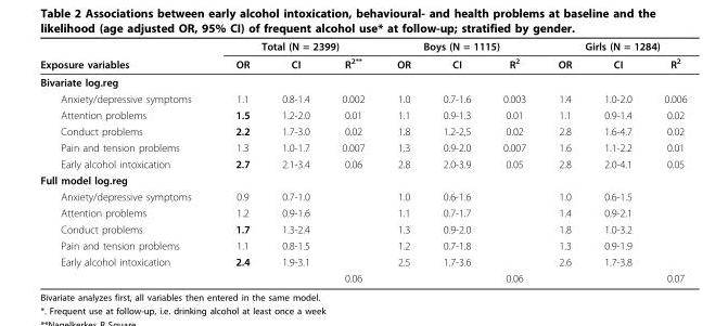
<table><thead><tr><td rowspan="2">Exposure variables</td><td colspan="3">Total (N = 2399)</td><td colspan="3">Boys (N = 1115)</td><td colspan="3">Girls (N = 1284)</td></tr><tr><td>OR</td><td>CI</td><td>R<sup>2**</sup></td><td>OR</td><td>CI</td><td>R<sup>2</sup></td><td>OR</td><td>CI</td><td>R<sup>2</sup></td></tr></thead><tbody><tr><td colspan="10">Bivariate log.reg</td></tr><tr><td>Anxiety/depressive symptoms</td><td>1.1</td><td>0.8-1.4</td><td>0.002</td><td>1.0</td><td>0.7-1.6</td><td>0.003</td><td>1.4</td><td>1.0-2.0</td><td>0.006</td></tr><tr><td>Attention problems</td><td>1.5</td><td>1.2-2.0</td><td>0.01</td><td>1.1</td><td>0.9-1.3</td><td>0.01</td><td>1.1</td><td>0.9-1.4</td><td>0.02</td></tr><tr><td>Conduct problems</td><td>2.2</td><td>1.7-3.0</td><td>0.02</td><td>1.8</td><td>1.2-2,5</td><td>0.02</td><td>2.8</td><td>1.6-4.7</td><td>0.02</td></tr><tr><td>Pain and tension problems</td><td>1.3</td><td>1.0-1.7</td><td>0.007</td><td>1.3</td><td>0.9-2.0</td><td>0.007</td><td>1.6</td><td>1.1-2.2</td><td>0.01</td></tr><tr><td>Early alcohol intoxication</td><td>2.7</td><td>2.1-3.4</td><td>0.06</td><td>2.8</td><td>2.0-3.9</td><td>0.05</td><td>2.8</td><td>2.0-4.1</td><td>0.05</td></tr><tr><td colspan="10">Full model log.reg</td></tr><tr><td>Anxiety/depressive symptoms</td><td>0.9</td><td>0.7-1.0</td><td></td><td>1.0</td><td>0.6-1.6</td><td></td><td>1.0</td><td>0.6-1.5</td><td></td></tr><tr><td>Attention problems</td><td>1.2</td><td>0.9-1.6</td><td></td><td>1.1</td><td>0.7-1.7</td><td></td><td>1.4</td><td>0.9-2.1</td><td></td></tr><tr><td>Conduct problems</td><td>1.7</td><td>1.3-2.4</td><td></td><td>1.3</td><td>0.9-2.0</td><td></td><td>1.8</td><td>1.0-3.2</td><td></td></tr><tr><td>Pain and tension problems</td><td>1.1</td><td>0.8-1.5</td><td></td><td>1.2</td><td>0.7-1.8</td><td></td><td>1.3</td><td>0.9-1.9</td><td></td></tr><tr><td rowspan="2">Early alcohol intoxication</td><td>2.4</td><td>1.9-3.1</td><td></td><td>2.5</td><td>1.7-3.6</td><td></td><td>2.6</td><td>1.7-3.8</td><td></td></tr><tr><td></td><td></td><td>0.06</td><td></td><td></td><td>0.06</td><td></td><td></td><td>0.07</td></tr></tbody></table>